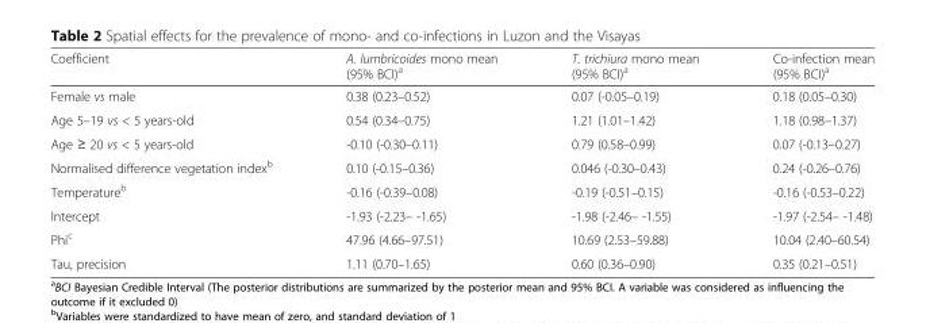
<table><thead><tr><td>Coefficient</td><td>A. lumbricoides mono mean (95% BCI)<sup>a</sup></td><td>T. trichiura mono mean (95% BCI)<sup>a</sup></td><td>Co-infection mean (95% BCI)<sup>a</sup></td></tr></thead><tbody><tr><td>Female vs male</td><td>0.38 (0.23–0.52)</td><td>0.07 (-0.05–0.19)</td><td>0.18 (0.05–0.30)</td></tr><tr><td>Age 5–19 vs &lt; 5 years-old</td><td>0.54 (0.34–0.75)</td><td>1.21 (1.01–1.42)</td><td>1.18 (0.98–1.37)</td></tr><tr><td>Age ≥ 20 vs &lt; 5 years-old</td><td>-0.10 (-0.30–0.11)</td><td>0.79 (0.58–0.99)</td><td>0.07 (-0.13–0.27)</td></tr><tr><td>Normalised difference vegetation index<sup>b</sup></td><td>0.10 (-0.15–0.36)</td><td>0.046 (-0.30–0.43)</td><td>0.24 (-0.26–0.76)</td></tr><tr><td>Temperature<sup>b</sup></td><td>-0.16 (-0.39–0.08)</td><td>-0.19 (-0.51–0.15)</td><td>-0.16 (-0.53–0.22)</td></tr><tr><td>Intercept</td><td>-1.93 (-2.23– -1.65)</td><td>-1.98 (-2.46– -1.55)</td><td>-1.97 (-2.54– -1.48)</td></tr><tr><td>Phi<sup>c</sup></td><td>47.96 (4.66–97.51)</td><td>10.69 (2.53–59.88)</td><td>10.04 (2.40–60.54)</td></tr><tr><td>Tau, precision</td><td>1.11 (0.70–1.65)</td><td>0.60 (0.36–0.90)</td><td>0.35 (0.21–0.51)</td></tr></tbody></table>